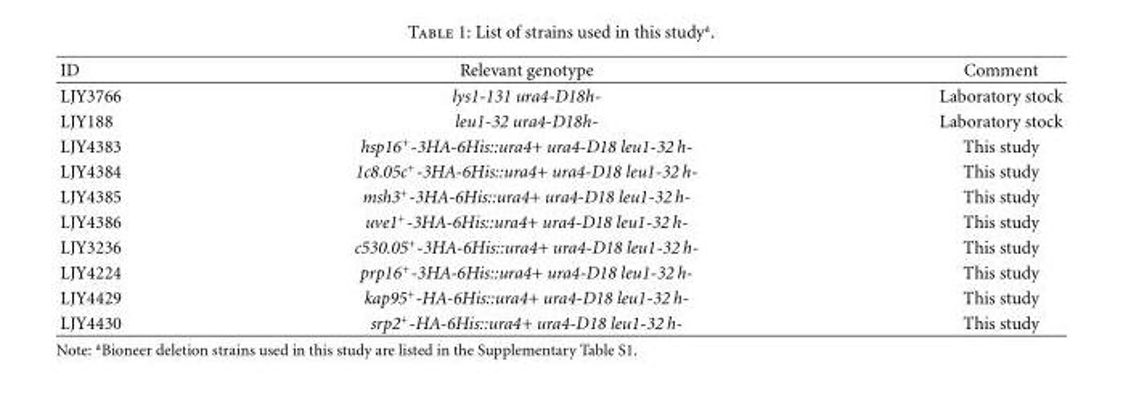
<table><thead><tr><td>ID</td><td>Relevant genotype</td><td>Comment</td></tr></thead><tbody><tr><td>LJY3766</td><td>lys1-131 ura4-D18h-</td><td>Laboratory stock</td></tr><tr><td>LJY188</td><td>leu1-32 ura4-D18h-</td><td>Laboratory stock</td></tr><tr><td>LJY4383</td><td>hsp16<sup>+</sup>-3HA-6His::ura4+ ura4-D18 leu1-32 h-</td><td>This study</td></tr><tr><td>LJY4384</td><td>1c8.05c<sup>+</sup>-3HA-6His::ura4+ ura4-D18 leu1-32 h-</td><td>This study</td></tr><tr><td>LJY4385</td><td>msh3<sup>+</sup>-3HA-6His::ura4+ ura4-D18 leu1-32 h-</td><td>This study</td></tr><tr><td>LJY4386</td><td>uve1<sup>+</sup>-3HA-6His::ura4+ ura4-D18 leu1-32 h-</td><td>This study</td></tr><tr><td>LJY3236</td><td>c530.05<sup>+</sup>-3HA-6His::ura4+ ura4-D18 leu1-32 h-</td><td>This study</td></tr><tr><td>LJY4224</td><td>prp16<sup>+</sup>-3HA-6His::ura4+ ura4-D18 leu1-32 h-</td><td>This study</td></tr><tr><td>LJY4429</td><td>kap95<sup>+</sup>-HA-6His::ura4+ ura4-D18 leu1-32 h-</td><td>This study</td></tr><tr><td>LJY4430</td><td>srp2<sup>+</sup>-HA-6His::ura4+ ura4-D18 leu1-32 h-</td><td>This study</td></tr></tbody></table>